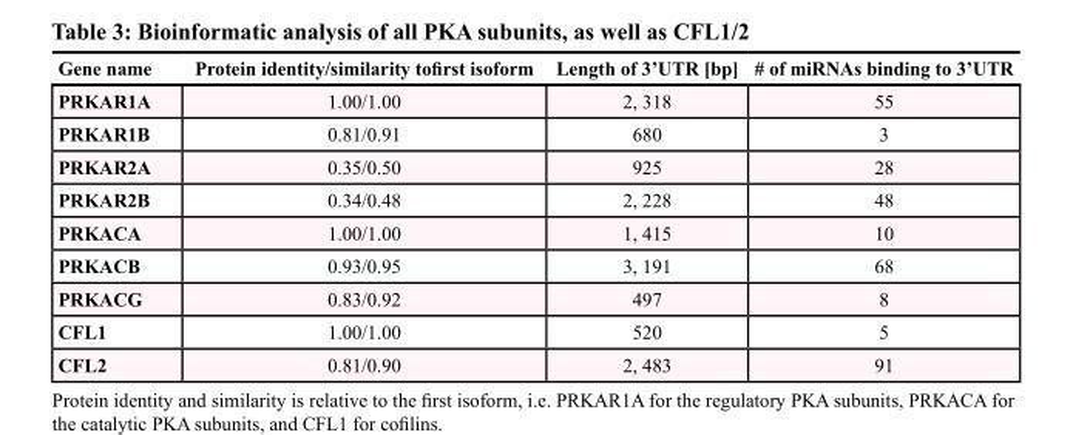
<table><thead><tr><td>Gene name</td><td>Protein identity/similarity tofirst isoform</td><td>Length of 3’UTR [bp]</td><td># of miRNAs binding to 3’UTR</td></tr></thead><tbody><tr><td>PRKAR1A</td><td>1.00/1.00</td><td>2, 318</td><td>55</td></tr><tr><td>PRKAR1B</td><td>0.81/0.91</td><td>680</td><td>3</td></tr><tr><td>PRKAR2A</td><td>0.35/0.50</td><td>925</td><td>28</td></tr><tr><td>PRKAR2B</td><td>0.34/0.48</td><td>2, 228</td><td>48</td></tr><tr><td>PRKACA</td><td>1.00/1.00</td><td>1, 415</td><td>10</td></tr><tr><td>PRKACB</td><td>0.93/0.95</td><td>3, 191</td><td>68</td></tr><tr><td>PRKACG</td><td>0.83/0.92</td><td>497</td><td>8</td></tr><tr><td>CFL1</td><td>1.00/1.00</td><td>520</td><td>5</td></tr><tr><td>CFL2</td><td>0.81/0.90</td><td>2, 483</td><td>91</td></tr></tbody></table>